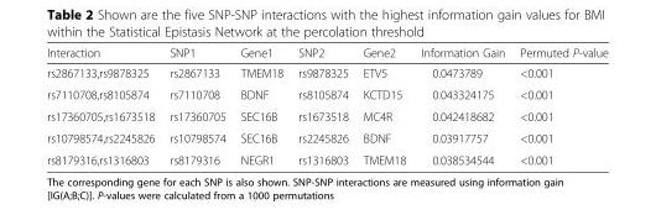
<table><thead><tr><td>Interaction</td><td>SNP1</td><td>Gene1</td><td>SNP2</td><td>Gene2</td><td>Information Gain</td><td>Permuted P-value</td></tr></thead><tbody><tr><td>rs2867133,rs9878325</td><td>rs2867133</td><td>TMEM18</td><td>rs9878325</td><td>ETV5</td><td>0.0473789</td><td>&lt;0.001</td></tr><tr><td>rs7110708,rs8105874</td><td>rs7110708</td><td>BDNF</td><td>rs8105874</td><td>KCTD15</td><td>0.043324175</td><td>&lt;0.001</td></tr><tr><td>rs17360705,rs1673518</td><td>rs17360705</td><td>SEC16B</td><td>rs1673518</td><td>MC4R</td><td>0.042418682</td><td>&lt;0.001</td></tr><tr><td>rs10798574,rs2245826</td><td>rs10798574</td><td>SEC16B</td><td>rs2245826</td><td>BDNF</td><td>0.03917757</td><td>&lt;0.001</td></tr><tr><td>rs8179316,rs1316803</td><td>rs8179316</td><td>NEGR1</td><td>rs1316803</td><td>TMEM18</td><td>0.038534544</td><td>&lt;0.001</td></tr></tbody></table>